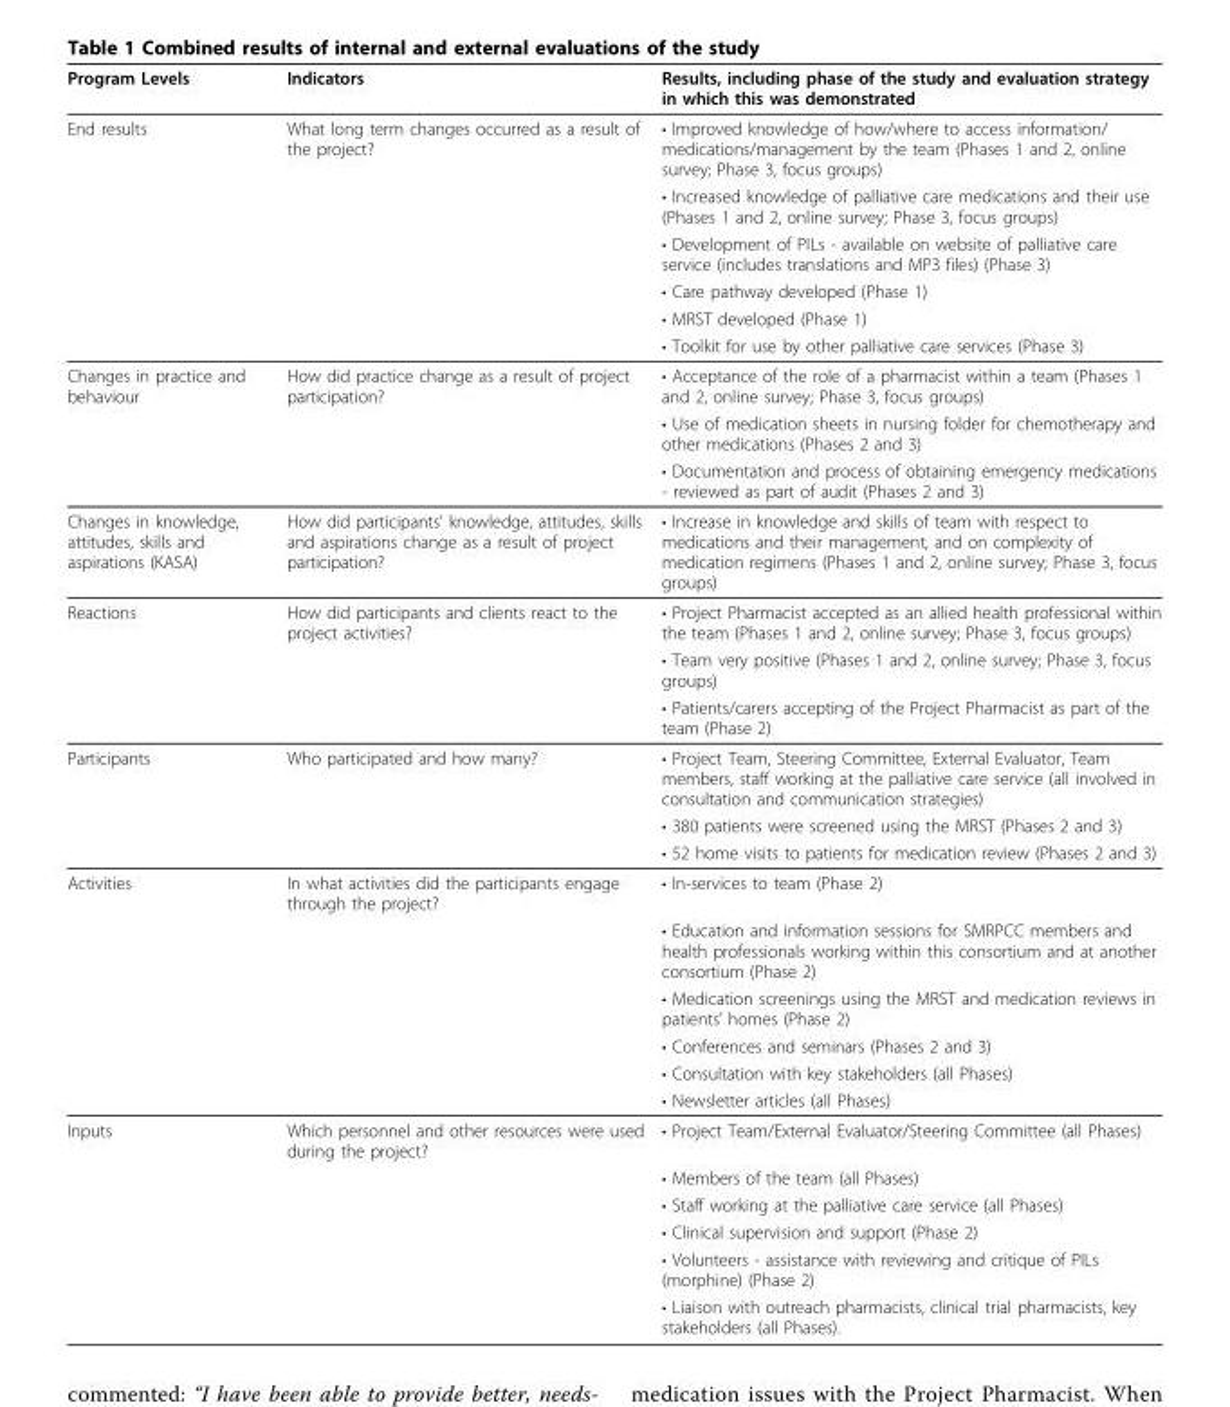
<table><thead><tr><td>Program Levels</td><td>Indicators</td><td>Results, including phase of the study and evaluation strategy in which this was demonstrated</td></tr></thead><tbody><tr><td rowspan="6">End results</td><td>What long term changes occurred as a result of the project?</td><td>• Improved knowledge of how/where to access information/ medications/management by the team (Phases 1 and 2, online survey; Phase 3, focus groups)</td></tr><tr><td></td><td>• Increased knowledge of palliative care medications and their use (Phases 1 and 2, online survey; Phase 3, focus groups)</td></tr><tr><td></td><td>• Development of PILs - available on website of palliative care service (includes translations and MP3 files) (Phase 3)</td></tr><tr><td></td><td>• Care pathway developed (Phase 1)</td></tr><tr><td></td><td>• MRST developed (Phase 1)</td></tr><tr><td></td><td>• Toolkit for use by other palliative care services (Phase 3)</td></tr><tr><td rowspan="3">Changes in practice and behaviour</td><td>How did practice change as a result of project participation?</td><td>• Acceptance of the role of a pharmacist within a team (Phases 1 and 2, online survey; Phase 3, focus groups)</td></tr><tr><td></td><td>• Use of medication sheets in nursing folder for chemotherapy and other medications (Phases 2 and 3)</td></tr><tr><td></td><td>• Documentation and process of obtaining emergency medications - reviewed as part of audit (Phases 2 and 3)</td></tr><tr><td>Changes in knowledge, attitudes, skills and aspirations (KASA)</td><td>How did participants’ knowledge, attitudes, skills and aspirations change as a result of project participation?</td><td>• Increase in knowledge and skills of team with respect to medications and their management, and on complexity of medication regimens (Phases 1 and 2, online survey; Phase 3, focus groups)</td></tr><tr><td rowspan="3">Reactions</td><td>How did participants and clients react to the project activities?</td><td>• Project Pharmacist accepted as an allied health professional within the team (Phases 1 and 2, online survey; Phase 3, focus groups)</td></tr><tr><td></td><td>• Team very positive (Phases 1 and 2, online survey; Phase 3, focus groups)</td></tr><tr><td></td><td>• Patients/carers accepting of the Project Pharmacist as part of the team (Phase 2)</td></tr><tr><td rowspan="3">Participants</td><td>Who participated and how many?</td><td>• Project Team, Steering Committee, External Evaluator, Team members, staff working at the palliative care service (all involved in consultation and communication strategies)</td></tr><tr><td></td><td>• 380 patients were screened using the MRST (Phases 2 and 3)</td></tr><tr><td></td><td>• 52 home visits to patients for medication review (Phases 2 and 3)</td></tr><tr><td rowspan="6">Activities</td><td>In what activities did the participants engage through the project?</td><td>• In-services to team (Phase 2)</td></tr><tr><td></td><td>• Education and information sessions for SMRPCC members and health professionals working within this consortium and at another consortium (Phase 2)</td></tr><tr><td></td><td>• Medication screenings using the MRST and medication reviews in patients’ homes (Phase 2)</td></tr><tr><td></td><td>• Conferences and seminars (Phases 2 and 3)</td></tr><tr><td></td><td>• Consultation with key stakeholders (all Phases)</td></tr><tr><td></td><td>• Newsletter articles (all Phases)</td></tr><tr><td rowspan="6">Inputs</td><td>Which personnel and other resources were used during the project?</td><td>• Project Team/External Evaluator/Steering Committee (all Phases)</td></tr><tr><td></td><td>• Members of the team (all Phases)</td></tr><tr><td></td><td>• Staff working at the palliative care service (all Phases)</td></tr><tr><td></td><td>• Clinical supervision and support (Phase 2)</td></tr><tr><td></td><td>• Volunteers - assistance with reviewing and critique of PILs (morphine) (Phase 2)</td></tr><tr><td></td><td>• Liaison with outreach pharmacists, clinical trial pharmacists, key stakeholders (all Phases).</td></tr></tbody></table>